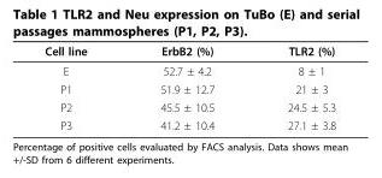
<table><thead><tr><td>Cell line</td><td>ErbB2 (%)</td><td>TLR2 (%)</td></tr></thead><tbody><tr><td>E</td><td>52.7 ± 4.2</td><td>8 ± 1</td></tr><tr><td>P1</td><td>51.9 ± 12.7</td><td>21 ± 3</td></tr><tr><td>P2</td><td>45.5 ± 10.5</td><td>24.5 ± 5.3</td></tr><tr><td>P3</td><td>41.2 ± 10.4</td><td>27.1 ± 3.8</td></tr></tbody></table>